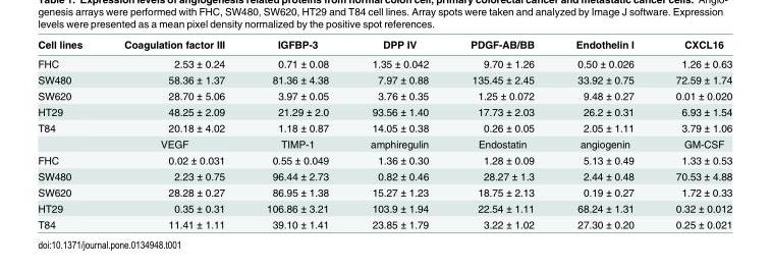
<table><thead><tr><td>Cell lines</td><td>Coagulation factor III</td><td>IGFBP-3</td><td>DPP IV</td><td>PDGF-AB/BB</td><td>Endothelin I</td><td>CXCL16</td></tr></thead><tbody><tr><td>FHC</td><td>2.53 ± 0.24</td><td>0.71 ± 0.08</td><td>1.35 ± 0.042</td><td>9.70 ± 1.26</td><td>0.50 ± 0.026</td><td>1.26 ± 0.63</td></tr><tr><td>SW480</td><td>58.36 ± 1.37</td><td>81.36 ± 4.38</td><td>7.97 ± 0.88</td><td>135.45 ± 2.45</td><td>33.92 ± 0.75</td><td>72.59 ± 1.74</td></tr><tr><td>SW620</td><td>28.70 ± 5.06</td><td>3.97 ± 0.05</td><td>3.76 ± 0.35</td><td>1.25 ± 0.072</td><td>9.48 ± 0.27</td><td>0.01 ± 0.020</td></tr><tr><td>HT29</td><td>48.25 ± 2.09</td><td>21.29 ± 2.0</td><td>93.56 ± 1.40</td><td>17.73 ± 2.03</td><td>26.2 ± 0.31</td><td>6.93 ± 1.54</td></tr><tr><td rowspan="2">T84</td><td>20.18 ± 4.02</td><td>1.18 ± 0.87</td><td>14.05 ± 0.38</td><td>0.26 ± 0.05</td><td>2.05 ± 1.11</td><td>3.79 ± 1.06</td></tr><tr><td>VEGF</td><td>TIMP-1</td><td>amphiregulin</td><td>Endostatin</td><td>angiogenin</td><td>GM-CSF</td></tr><tr><td>FHC</td><td>0.02 ± 0.031</td><td>0.55 ± 0.049</td><td>1.36 ± 0.30</td><td>1.28 ± 0.09</td><td>5.13 ± 0.49</td><td>1.33 ± 0.53</td></tr><tr><td>SW480</td><td>2.23 ± 0.75</td><td>96.44 ± 2.73</td><td>0.82 ± 0.46</td><td>28.27 ± 1.3</td><td>2.44 ± 0.48</td><td>70.53 ± 4.88</td></tr><tr><td>SW620</td><td>28.28 ± 0.27</td><td>86.95 ± 1.38</td><td>15.27 ± 1.23</td><td>18.75 ± 2.13</td><td>0.19 ± 0.27</td><td>1.72 ± 0.33</td></tr><tr><td>HT29</td><td>0.35 ± 0.31</td><td>106.86 ± 3.21</td><td>103.9 ± 1.94</td><td>22.54 ± 1.11</td><td>68.24 ± 1.31</td><td>0.32 ± 0.012</td></tr><tr><td>T84</td><td>11.41 ± 1.11</td><td>39.10 ± 1.41</td><td>23.85 ± 1.79</td><td>3.22 ± 1.02</td><td>27.30 ± 0.20</td><td>0.25 ± 0.021</td></tr></tbody></table>